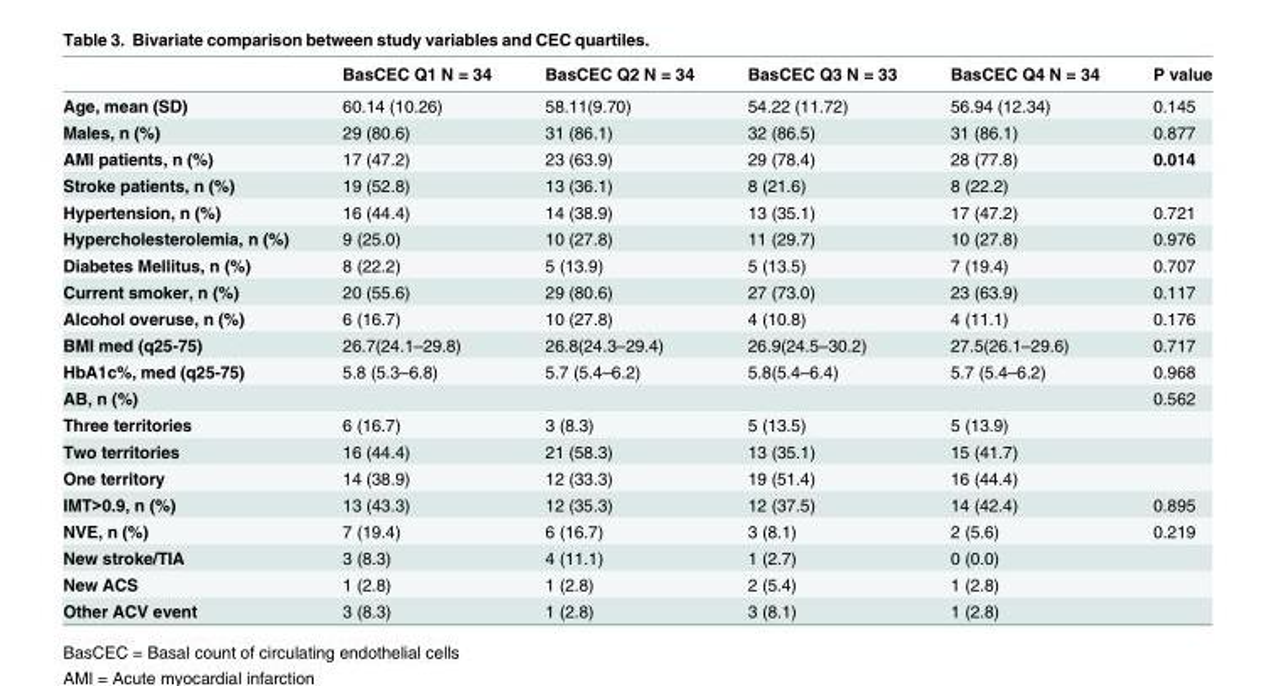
<table><thead><tr><td></td><td>BasCEC Q1 N = 34</td><td>BasCEC Q2 N = 34</td><td>BasCEC Q3 N = 33</td><td>BasCEC Q4 N = 34</td><td>P value</td></tr></thead><tbody><tr><td>Age, mean (SD)</td><td>60.14 (10.26)</td><td>58.11(9.70)</td><td>54.22 (11.72)</td><td>56.94 (12.34)</td><td>0.145</td></tr><tr><td>Males, n (%)</td><td>29 (80.6)</td><td>31 (86.1)</td><td>32 (86.5)</td><td>31 (86.1)</td><td>0.877</td></tr><tr><td>AMI patients, n (%)</td><td>17 (47.2)</td><td>23 (63.9)</td><td>29 (78.4)</td><td>28 (77.8)</td><td>0.014</td></tr><tr><td>Stroke patients, n (%)</td><td>19 (52.8)</td><td>13 (36.1)</td><td>8 (21.6)</td><td>8 (22.2)</td><td></td></tr><tr><td>Hypertension, n (%)</td><td>16 (44.4)</td><td>14 (38.9)</td><td>13 (35.1)</td><td>17 (47.2)</td><td>0.721</td></tr><tr><td>Hypercholesterolemia, n (%)</td><td>9 (25.0)</td><td>10 (27.8)</td><td>11 (29.7)</td><td>10 (27.8)</td><td>0.976</td></tr><tr><td>Diabetes Mellitus, n (%)</td><td>8 (22.2)</td><td>5 (13.9)</td><td>5 (13.5)</td><td>7 (19.4)</td><td>0.707</td></tr><tr><td>Current smoker, n (%)</td><td>20 (55.6)</td><td>29 (80.6)</td><td>27 (73.0)</td><td>23 (63.9)</td><td>0.117</td></tr><tr><td>Alcohol overuse, n (%)</td><td>6 (16.7)</td><td>10 (27.8)</td><td>4 (10.8)</td><td>4 (11.1)</td><td>0.176</td></tr><tr><td>BMI med (q25-75)</td><td>26.7(24.1–29.8)</td><td>26.8(24.3–29.4)</td><td>26.9(24.5–30.2)</td><td>27.5(26.1–29.6)</td><td>0.717</td></tr><tr><td>HbA1c%, med (q25-75)</td><td>5.8 (5.3–6.8)</td><td>5.7 (5.4–6.2)</td><td>5.8(5.4–6.4)</td><td>5.7 (5.4–6.2)</td><td>0.968</td></tr><tr><td>AB, n (%)</td><td></td><td></td><td></td><td></td><td>0.562</td></tr><tr><td>Three territories</td><td>6 (16.7)</td><td>3 (8.3)</td><td>5 (13.5)</td><td>5 (13.9)</td><td></td></tr><tr><td>Two territories</td><td>16 (44.4)</td><td>21 (58.3)</td><td>13 (35.1)</td><td>15 (41.7)</td><td></td></tr><tr><td>One territory</td><td>14 (38.9)</td><td>12 (33.3)</td><td>19 (51.4)</td><td>16 (44.4)</td><td></td></tr><tr><td>IMT&gt;0.9, n (%)</td><td>13 (43.3)</td><td>12 (35.3)</td><td>12 (37.5)</td><td>14 (42.4)</td><td>0.895</td></tr><tr><td>NVE, n (%)</td><td>7 (19.4)</td><td>6 (16.7)</td><td>3 (8.1)</td><td>2 (5.6)</td><td>0.219</td></tr><tr><td>New stroke/TIA</td><td>3 (8.3)</td><td>4 (11.1)</td><td>1 (2.7)</td><td>0 (0.0)</td><td></td></tr><tr><td>New ACS</td><td>1 (2.8)</td><td>1 (2.8)</td><td>2 (5.4)</td><td>1 (2.8)</td><td></td></tr><tr><td>Other ACV event</td><td>3 (8.3)</td><td>1 (2.8)</td><td>3 (8.1)</td><td>1 (2.8)</td><td></td></tr></tbody></table>